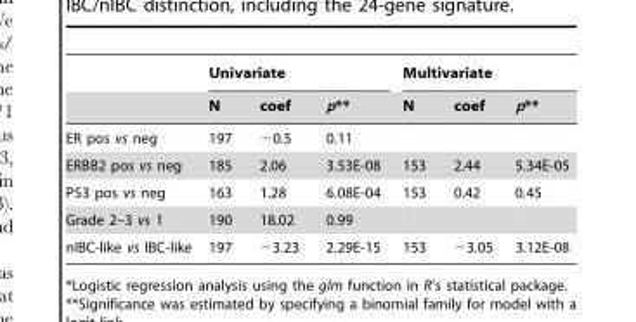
<table><thead><tr><td rowspan="2"></td><td colspan="3">Univariate</td><td colspan="3">Multivariate</td></tr><tr><td>N</td><td>coef</td><td>p**</td><td>N</td><td>coef</td><td>p**</td></tr></thead><tbody><tr><td>ER pos vs neg</td><td>197</td><td>−0.5</td><td>0.11</td><td></td><td></td><td></td></tr><tr><td>ERBB2 pos vs neg</td><td>185</td><td>2.06</td><td>3.53E-08</td><td>153</td><td>2.44</td><td>5.34E-05</td></tr><tr><td>P53 pos vs neg</td><td>163</td><td>1.28</td><td>6.08E-04</td><td>153</td><td>0.42</td><td>0.45</td></tr><tr><td>Grade 2–3 vs 1</td><td>190</td><td>18.02</td><td>0.99</td><td></td><td></td><td></td></tr><tr><td>nIBC-like vs IBC-like</td><td>197</td><td>−3.23</td><td>2.29E-15</td><td>153</td><td>−3.05</td><td>3.12E-08</td></tr></tbody></table>